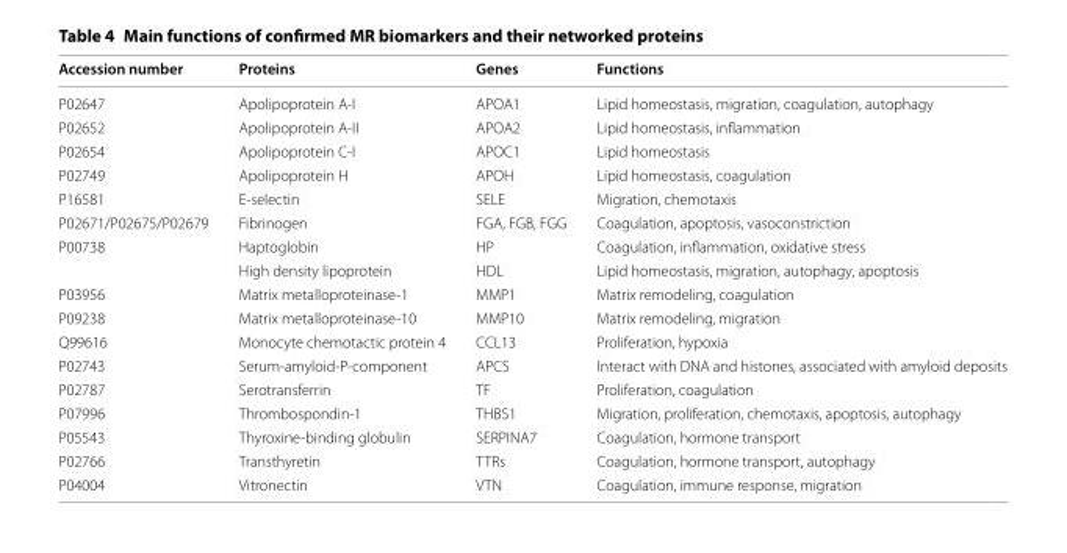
<table><thead><tr><td>Accession number</td><td>Proteins</td><td>Genes</td><td>Functions</td></tr></thead><tbody><tr><td>P02647</td><td>Apolipoprotein A‑I</td><td>APOA1</td><td>Lipid homeostasis, migration, coagulation, autophagy</td></tr><tr><td>P02652</td><td>Apolipoprotein A‑II</td><td>APOA2</td><td>Lipid homeostasis, inflammation</td></tr><tr><td>P02654</td><td>Apolipoprotein C‑I</td><td>APOC1</td><td>Lipid homeostasis</td></tr><tr><td>P02749</td><td>Apolipoprotein H</td><td>APOH</td><td>Lipid homeostasis, coagulation</td></tr><tr><td>P16581</td><td>E‑selectin</td><td>SELE</td><td>Migration, chemotaxis</td></tr><tr><td>P02671/P02675/P02679</td><td>Fibrinogen</td><td>FGA, FGB, FGG</td><td>Coagulation, apoptosis, vasoconstriction</td></tr><tr><td rowspan="2">P00738</td><td>Haptoglobin</td><td>HP</td><td>Coagulation, inflammation, oxidative stress</td></tr><tr><td>High density lipoprotein</td><td>HDL</td><td>Lipid homeostasis, migration, autophagy, apoptosis</td></tr><tr><td>P03956</td><td>Matrix metalloproteinase‑1</td><td>MMP1</td><td>Matrix remodeling, coagulation</td></tr><tr><td>P09238</td><td>Matrix metalloproteinase‑10</td><td>MMP10</td><td>Matrix remodeling, migration</td></tr><tr><td>Q99616</td><td>Monocyte chemotactic protein 4</td><td>CCL13</td><td>Proliferation, hypoxia</td></tr><tr><td>P02743</td><td>Serum‑amyloid‑P‑component</td><td>APCS</td><td>Interact with DNA and histones, associated with amyloid deposits</td></tr><tr><td>P02787</td><td>Serotransferrin</td><td>TF</td><td>Proliferation, coagulation</td></tr><tr><td>P07996</td><td>Thrombospondin‑1</td><td>THBS1</td><td>Migration, proliferation, chemotaxis, apoptosis, autophagy</td></tr><tr><td>P05543</td><td>Thyroxine‑binding globulin</td><td>SERPINA7</td><td>Coagulation, hormone transport</td></tr><tr><td>P02766</td><td>Transthyretin</td><td>TTRs</td><td>Coagulation, hormone transport, autophagy</td></tr><tr><td>P04004</td><td>Vitronectin</td><td>VTN</td><td>Coagulation, immune response, migration</td></tr></tbody></table>